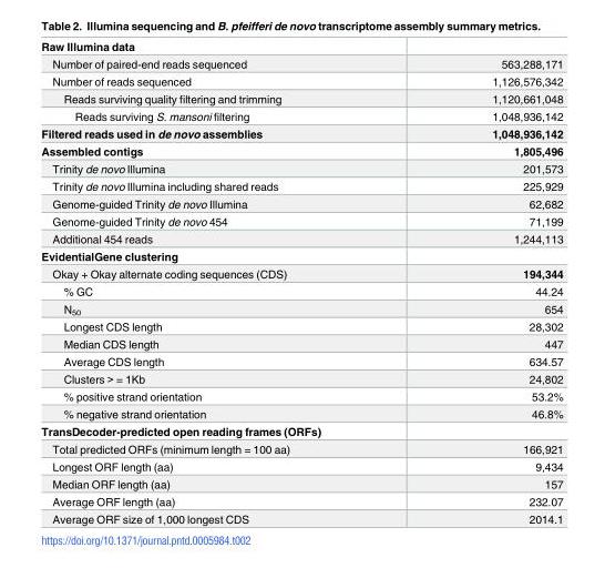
<table><tbody><tr><td colspan="2">Raw Illumina data</td></tr><tr><td>Number of paired-end reads sequenced</td><td>563,288,171</td></tr><tr><td>Number of reads sequenced</td><td>1,126,576,342</td></tr><tr><td>Reads surviving quality filtering and trimming</td><td>1,120,661,048</td></tr><tr><td>Reads surviving S. mansoni filtering</td><td>1,048,936,142</td></tr><tr><td>Filtered reads used in de novo assemblies</td><td>1,048,936,142</td></tr><tr><td>Assembled contigs</td><td>1,805,496</td></tr><tr><td>Trinity de novo Illumina</td><td>201,573</td></tr><tr><td>Trinity de novo Illumina including shared reads</td><td>225,929</td></tr><tr><td>Genome-guided Trinity de novo Illumina</td><td>62,682</td></tr><tr><td>Genome-guided Trinity de novo 454</td><td>71,199</td></tr><tr><td>Additional 454 reads</td><td>1,244,113</td></tr><tr><td colspan="2">EvidentialGene clustering</td></tr><tr><td>Okay + Okay alternate coding sequences (CDS)</td><td>194,344</td></tr><tr><td>% GC</td><td>44.24</td></tr><tr><td>N<sub>50</sub></td><td>654</td></tr><tr><td>Longest CDS length</td><td>28,302</td></tr><tr><td>Median CDS length</td><td>447</td></tr><tr><td>Average CDS length</td><td>634.57</td></tr><tr><td>Clusters &gt; = 1Kb</td><td>24,802</td></tr><tr><td>% positive strand orientation</td><td>53.2%</td></tr><tr><td>% negative strand orientation</td><td>46.8%</td></tr><tr><td colspan="2">TransDecoder-predicted open reading frames (ORFs)</td></tr><tr><td>Total predicted ORFs (minimum length = 100 aa)</td><td>166,921</td></tr><tr><td>Longest ORF length (aa)</td><td>9,434</td></tr><tr><td>Median ORF length (aa)</td><td>157</td></tr><tr><td>Average ORF length (aa)</td><td>232.07</td></tr><tr><td>Average ORF size of 1,000 longest CDS</td><td>2014.1</td></tr></tbody></table>